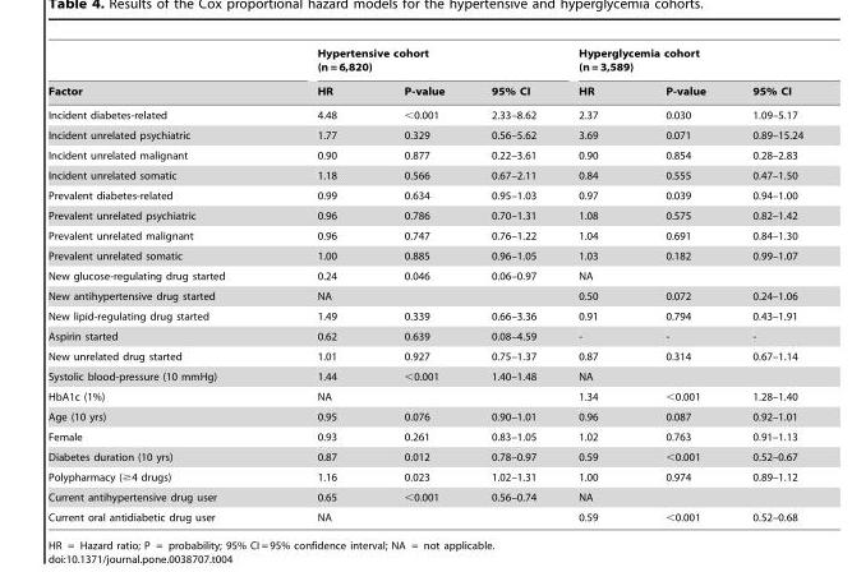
<table><thead><tr><td rowspan="2">Factor</td><td colspan="3">Hypertensive cohort (n = 6,820)</td><td colspan="3">Hyperglycemia cohort (n = 3,589)</td></tr><tr><td>HR</td><td>P-value</td><td>95% CI</td><td>HR</td><td>P-value</td><td>95% CI</td></tr></thead><tbody><tr><td>Incident diabetes-related</td><td>4.48</td><td>&lt;0.001</td><td>2.33–8.62</td><td>2.37</td><td>0.030</td><td>1.09–5.17</td></tr><tr><td>Incident unrelated psychiatric</td><td>1.77</td><td>0.329</td><td>0.56–5.62</td><td>3.69</td><td>0.071</td><td>0.89–15.24</td></tr><tr><td>Incident unrelated malignant</td><td>0.90</td><td>0.877</td><td>0.22–3.61</td><td>0.90</td><td>0.854</td><td>0.28–2.83</td></tr><tr><td>Incident unrelated somatic</td><td>1.18</td><td>0.566</td><td>0.67–2.11</td><td>0.84</td><td>0.555</td><td>0.47–1.50</td></tr><tr><td>Prevalent diabetes-related</td><td>0.99</td><td>0.634</td><td>0.95–1.03</td><td>0.97</td><td>0.039</td><td>0.94–1.00</td></tr><tr><td>Prevalent unrelated psychiatric</td><td>0.96</td><td>0.786</td><td>0.70–1.31</td><td>1.08</td><td>0.575</td><td>0.82–1.42</td></tr><tr><td>Prevalent unrelated malignant</td><td>0.96</td><td>0.747</td><td>0.76–1.22</td><td>1.04</td><td>0.691</td><td>0.84–1.30</td></tr><tr><td>Prevalent unrelated somatic</td><td>1.00</td><td>0.885</td><td>0.96–1.05</td><td>1.03</td><td>0.182</td><td>0.99–1.07</td></tr><tr><td>New glucose-regulating drug started</td><td>0.24</td><td>0.046</td><td>0.06–0.97</td><td colspan="3">NA</td></tr><tr><td>New antihypertensive drug started</td><td colspan="3">NA</td><td>0.50</td><td>0.072</td><td>0.24–1.06</td></tr><tr><td>New lipid-regulating drug started</td><td>1.49</td><td>0.339</td><td>0.66–3.36</td><td>0.91</td><td>0.794</td><td>0.43–1.91</td></tr><tr><td>Aspirin started</td><td>0.62</td><td>0.639</td><td>0.08–4.59</td><td>-</td><td>-</td><td>-</td></tr><tr><td>New unrelated drug started</td><td>1.01</td><td>0.927</td><td>0.75–1.37</td><td>0.87</td><td>0.314</td><td>0.67–1.14</td></tr><tr><td>Systolic blood-pressure (10 mmHg)</td><td>1.44</td><td>&lt;0.001</td><td>1.40–1.48</td><td colspan="3">NA</td></tr><tr><td>HbA1c (1%)</td><td colspan="3">NA</td><td>1.34</td><td>&lt;0.001</td><td>1.28–1.40</td></tr><tr><td>Age (10 yrs)</td><td>0.95</td><td>0.076</td><td>0.90–1.01</td><td>0.96</td><td>0.087</td><td>0.92–1.01</td></tr><tr><td>Female</td><td>0.93</td><td>0.261</td><td>0.83–1.05</td><td>1.02</td><td>0.763</td><td>0.91–1.13</td></tr><tr><td>Diabetes duration (10 yrs)</td><td>0.87</td><td>0.012</td><td>0.78–0.97</td><td>0.59</td><td>&lt;0.001</td><td>0.52–0.67</td></tr><tr><td>Polypharmacy (≥4 drugs)</td><td>1.16</td><td>0.023</td><td>1.02–1.31</td><td>1.00</td><td>0.974</td><td>0.89–1.12</td></tr><tr><td>Current antihypertensive drug user</td><td>0.65</td><td>&lt;0.001</td><td>0.56–0.74</td><td colspan="3">NA</td></tr><tr><td>Current oral antidiabetic drug user</td><td colspan="3">NA</td><td>0.59</td><td>&lt;0.001</td><td>0.52–0.68</td></tr></tbody></table>